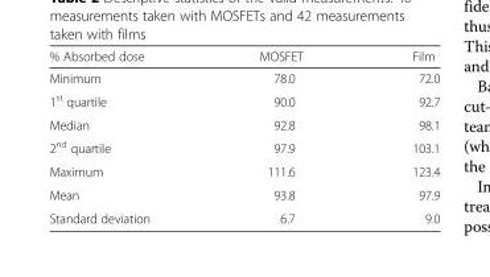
<table><thead><tr><td>% Absorbed dose</td><td>MOSFET</td><td>Film</td></tr></thead><tbody><tr><td>Minimum</td><td>78.0</td><td>72.0</td></tr><tr><td>1<sup>st</sup> quartile</td><td>90.0</td><td>92.7</td></tr><tr><td>Median</td><td>92.8</td><td>98.1</td></tr><tr><td>2<sup>nd</sup> quartile</td><td>97.9</td><td>103.1</td></tr><tr><td>Maximum</td><td>111.6</td><td>123.4</td></tr><tr><td>Mean</td><td>93.8</td><td>97.9</td></tr><tr><td>Standard deviation</td><td>6.7</td><td>9.0</td></tr></tbody></table>